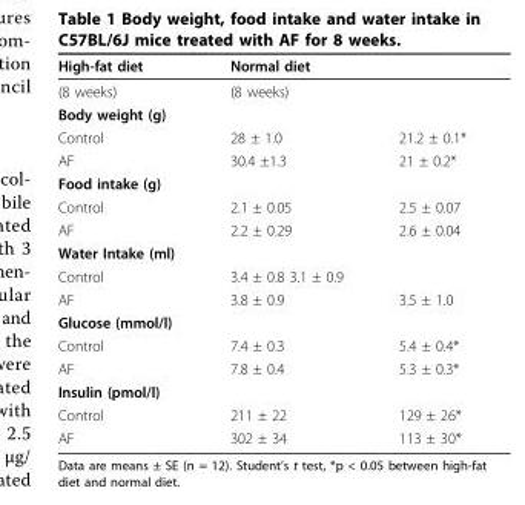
<table><thead><tr><td rowspan="3">High-fat diet (8 weeks) Body weight (g)</td><td rowspan="2" colspan="2">Normal diet (8 weeks)</td></tr><tr></tr><tr><td></td><td></td></tr></thead><tbody><tr><td>Control</td><td>28 ± 1.0</td><td>21.2 ± 0.1*</td></tr><tr><td>AF</td><td>30.4 ±1.3</td><td>21 ± 0.2*</td></tr><tr><td colspan="3">Food intake (g)</td></tr><tr><td>Control</td><td>2.1 ± 0.05</td><td>2.5 ± 0.07</td></tr><tr><td>AF</td><td>2.2 ± 0.29</td><td>2.6 ± 0.04</td></tr><tr><td colspan="3">Water Intake (ml)</td></tr><tr><td>Control</td><td>3.4 ± 0.8 3.1 ± 0.9</td><td></td></tr><tr><td>AF</td><td>3.8 ± 0.9</td><td>3.5 ± 1.0</td></tr><tr><td colspan="3">Glucose (mmol/l)</td></tr><tr><td>Control</td><td>7.4 ± 0.3</td><td>5.4 ± 0.4*</td></tr><tr><td>AF</td><td>7.8 ± 0.4</td><td>5.3 ± 0.3*</td></tr><tr><td colspan="3">Insulin (pmol/l)</td></tr><tr><td>Control</td><td>211 ± 22</td><td>129 ± 26*</td></tr><tr><td>AF</td><td>302 ± 34</td><td>113 ± 30*</td></tr></tbody></table>